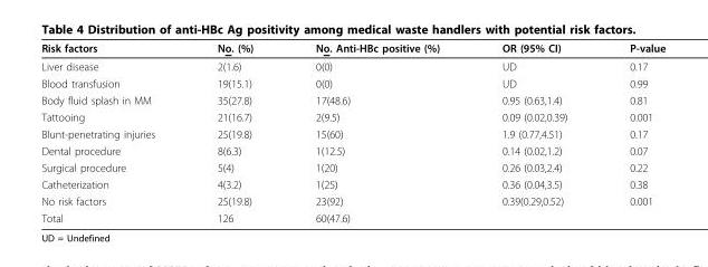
<table><thead><tr><td>Risk factors</td><td>No. (%)</td><td>No. Anti-HBc positive (%)</td><td>OR (95% CI)</td><td>P-value</td></tr></thead><tbody><tr><td>Liver disease</td><td>2(1.6)</td><td>0(0)</td><td>UD</td><td>0.17</td></tr><tr><td>Blood transfusion</td><td>19(15.1)</td><td>0(0)</td><td>UD</td><td>0.99</td></tr><tr><td>Body fluid splash in MM</td><td>35(27.8)</td><td>17(48.6)</td><td>0.95 (0.63,1.4)</td><td>0.81</td></tr><tr><td>Tattooing</td><td>21(16.7)</td><td>2(9.5)</td><td>0.09 (0.02,0.39)</td><td>0.001</td></tr><tr><td>Blunt-penetrating injuries</td><td>25(19.8)</td><td>15(60)</td><td>1.9 (0.77,4.51)</td><td>0.17</td></tr><tr><td>Dental procedure</td><td>8(6.3)</td><td>1(12.5)</td><td>0.14 (0.02,1.2)</td><td>0.07</td></tr><tr><td>Surgical procedure</td><td>5(4)</td><td>1(20)</td><td>0.26 (0.03,2.4)</td><td>0.22</td></tr><tr><td>Catheterization</td><td>4(3.2)</td><td>1(25)</td><td>0.36 (0.04,3.5)</td><td>0.38</td></tr><tr><td>No risk factors</td><td>25(19.8)</td><td>23(92)</td><td>0.39(0.29,0.52)</td><td>0.001</td></tr><tr><td>Total</td><td>126</td><td>60(47.6)</td><td></td><td></td></tr></tbody></table>